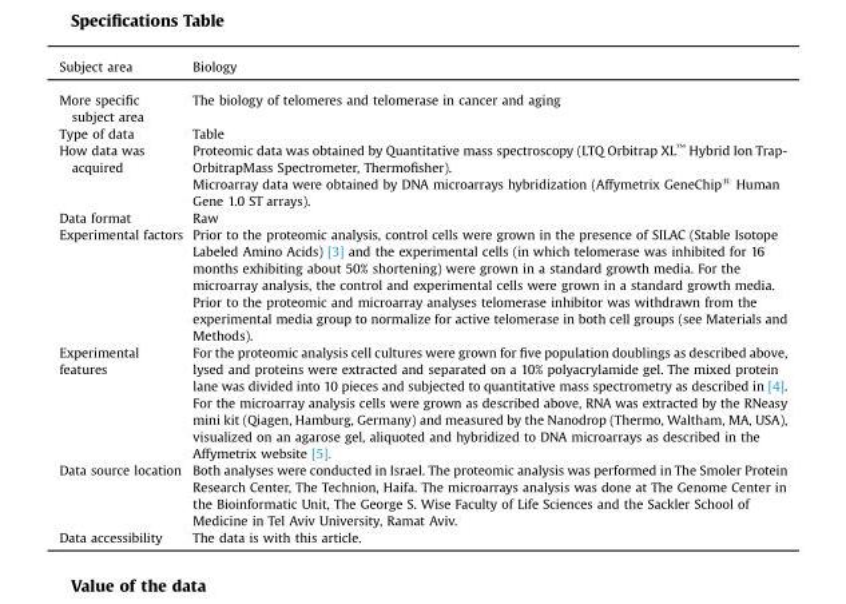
<table><thead><tr><td>Subject area</td><td>Biology</td></tr></thead><tbody><tr><td>More specific subject area</td><td>The biology of telomeres and telomerase in cancer and aging</td></tr><tr><td>Type of data</td><td>Table</td></tr><tr><td rowspan="2">How data was acquired</td><td>Proteomic data was obtained by Quantitative mass spectroscopy (LTQ Orbitrap XL<sup>™</sup> Hybrid Ion Trap- OrbitrapMass Spectrometer, Thermofisher).</td></tr><tr><td>Microarray data were obtained by DNA microarrays hybridization (Affymetrix GeneChip<sup>®</sup> Human Gene 1.0 ST arrays).</td></tr><tr><td>Data format</td><td>Raw</td></tr><tr><td rowspan="2">Experimental factors</td><td>Prior to the proteomic analysis, control cells were grown in the presence of SILAC (Stable Isotope Labeled Amino Acids) [3] and the experimental cells (in which telomerase was inhibited for 16 months exhibiting about 50% shortening) were grown in a standard growth media. For the microarray analysis, the control and experimental cells were grown in a standard growth media.</td></tr><tr><td>Prior to the proteomic and microarray analyses telomerase inhibitor was withdrawn from the experimental media group to normalize for active telomerase in both cell groups (see Materials and Methods).</td></tr><tr><td rowspan="2">Experimental features</td><td>For the proteomic analysis cell cultures were grown for five population doublings as described above, lysed and proteins were extracted and separated on a 10% polyacrylamide gel. The mixed protein lane was divided into 10 pieces and subjected to quantitative mass spectrometry as described in [4].</td></tr><tr><td>For the microarray analysis cells were grown as described above, RNA was extracted by the RNeasy mini kit (Qiagen, Hamburg, Germany) and measured by the Nanodrop (Thermo, Waltham, MA, USA), visualized on an agarose gel, aliquoted and hybridized to DNA microarrays as described in the Affymetrix website [5].</td></tr><tr><td>Data source location</td><td>Both analyses were conducted in Israel. The proteomic analysis was performed in The Smoler Protein Research Center, The Technion, Haifa. The microarrays analysis was done at The Genome Center in the Bioinformatic Unit, The George S. Wise Faculty of Life Sciences and the Sackler School of Medicine in Tel Aviv University, Ramat Aviv.</td></tr><tr><td>Data accessibility</td><td>The data is with this article.</td></tr></tbody></table>